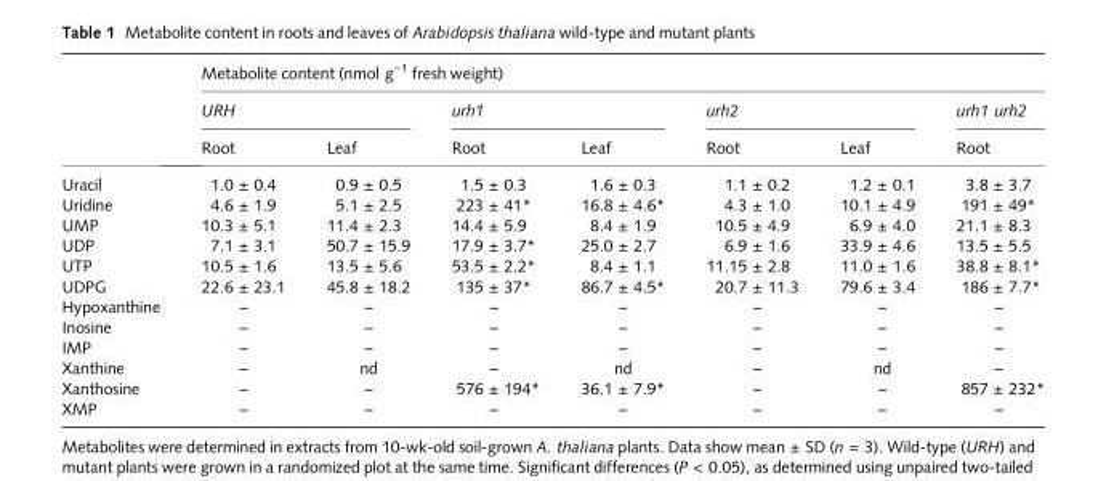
<table><thead><tr><td rowspan="3"></td><td colspan="7">Metabolite content (nmol g<sup>−1</sup> fresh weight)</td></tr><tr><td colspan="2">URH</td><td colspan="2">urh1</td><td colspan="2">urh2</td><td rowspan="2">urh1 urh2 Root</td></tr><tr><td>Root</td><td>Leaf</td><td>Root</td><td>Leaf</td><td>Root</td><td>Leaf</td></tr></thead><tbody><tr><td>Uracil</td><td>1.0 ± 0.4</td><td>0.9 ± 0.5</td><td>1.5 ± 0.3</td><td>1.6 ± 0.3</td><td>1.1 ± 0.2</td><td>1.2 ± 0.1</td><td>3.8 ± 3.7</td></tr><tr><td>Uridine</td><td>4.6 ± 1.9</td><td>5.1 ± 2.5</td><td>223 ± 41*</td><td>16.8 ± 4.6*</td><td>4.3 ± 1.0</td><td>10.1 ± 4.9</td><td>191 ± 49*</td></tr><tr><td>UMP</td><td>10.3 ± 5.1</td><td>11.4 ± 2.3</td><td>14.4 ± 5.9</td><td>8.4 ± 1.9</td><td>10.5 ± 4.9</td><td>6.9 ± 4.0</td><td>21.1 ± 8.3</td></tr><tr><td>UDP</td><td>7.1 ± 3.1</td><td>50.7 ± 15.9</td><td>17.9 ± 3.7*</td><td>25.0 ± 2.7</td><td>6.9 ± 1.6</td><td>33.9 ± 4.6</td><td>13.5 ± 5.5</td></tr><tr><td>UTP</td><td>10.5 ± 1.6</td><td>13.5 ± 5.6</td><td>53.5 ± 2.2*</td><td>8.4 ± 1.1</td><td>11.15 ± 2.8</td><td>11.0 ± 1.6</td><td>38.8 ± 8.1*</td></tr><tr><td>UDPG</td><td>22.6 ± 23.1</td><td>45.8 ± 18.2</td><td>135 ± 37*</td><td>86.7 ± 4.5*</td><td>20.7 ± 11.3</td><td>79.6 ± 3.4</td><td>186 ± 7.7*</td></tr><tr><td>Hypoxanthine</td><td>–</td><td>–</td><td>–</td><td>–</td><td>–</td><td>–</td><td>–</td></tr><tr><td>Inosine</td><td>–</td><td>–</td><td>–</td><td>–</td><td>–</td><td>–</td><td>–</td></tr><tr><td>IMP</td><td>–</td><td>–</td><td>–</td><td>–</td><td>–</td><td>–</td><td>–</td></tr><tr><td>Xanthine</td><td>–</td><td>nd</td><td>–</td><td>nd</td><td>–</td><td>nd</td><td>–</td></tr><tr><td>Xanthosine</td><td>–</td><td>–</td><td>576 ± 194*</td><td>36.1 ± 7.9*</td><td>–</td><td>–</td><td>857 ± 232*</td></tr><tr><td>XMP</td><td>–</td><td>–</td><td>–</td><td>–</td><td>–</td><td>–</td><td>–</td></tr></tbody></table>